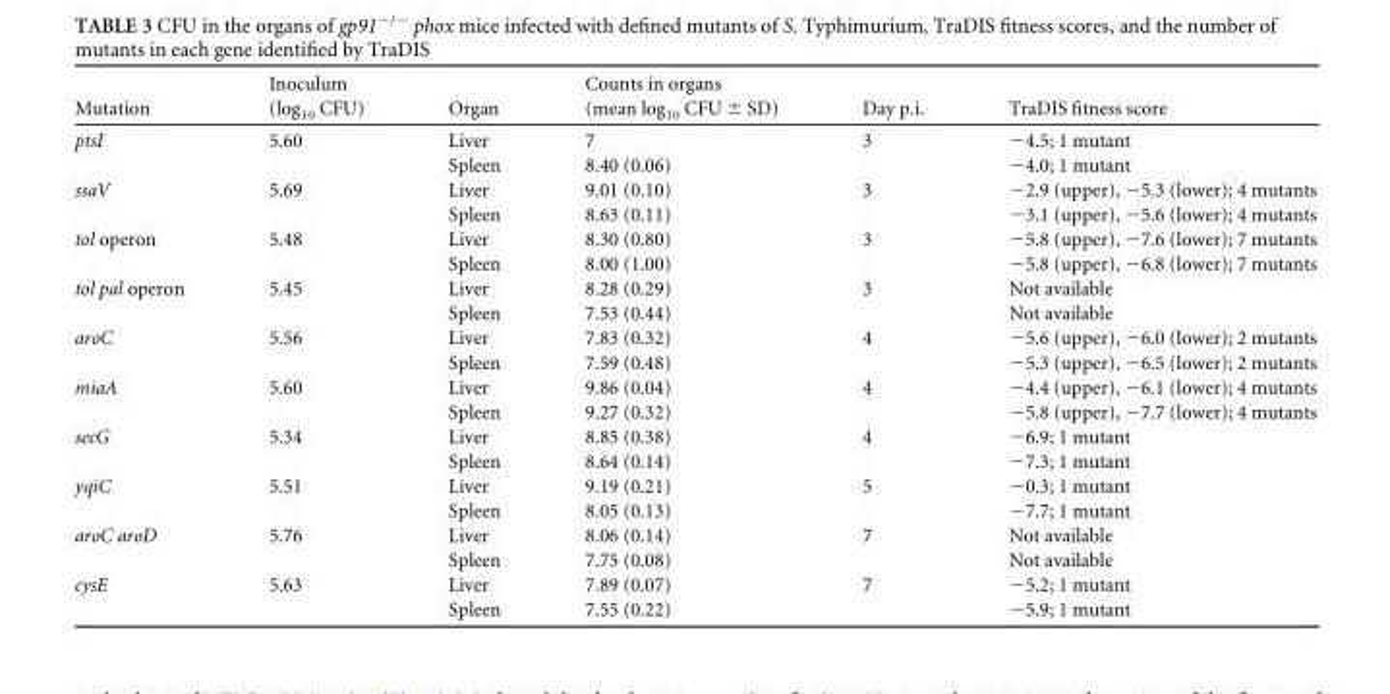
<table><thead><tr><td>Mutation</td><td>Inoculum (log<sub>10</sub> CFU)</td><td>Organ</td><td>Counts in organs (mean log<sub>10</sub> CFU ± SD)</td><td>Day p.i.</td><td>TraDIS fitness score</td></tr></thead><tbody><tr><td rowspan="2">ptsI</td><td>5.60</td><td>Liver</td><td>7</td><td>3</td><td>−4.5; 1 mutant</td></tr><tr><td></td><td>Spleen</td><td>8.40 (0.06)</td><td></td><td>−4.0; 1 mutant</td></tr><tr><td rowspan="2">ssaV</td><td>5.69</td><td>Liver</td><td>9.01 (0.10)</td><td>3</td><td>−2.9 (upper), −5.3 (lower); 4 mutants</td></tr><tr><td></td><td>Spleen</td><td>8.63 (0.11)</td><td></td><td>−3.1 (upper), −5.6 (lower); 4 mutants</td></tr><tr><td rowspan="2">tol operon</td><td>5.48</td><td>Liver</td><td>8.30 (0.80)</td><td>3</td><td>−5.8 (upper), −7.6 (lower); 7 mutants</td></tr><tr><td></td><td>Spleen</td><td>8.00 (1.00)</td><td></td><td>−5.8 (upper), −6.8 (lower); 7 mutants</td></tr><tr><td rowspan="2">tol pal operon</td><td>5.45</td><td>Liver</td><td>8.28 (0.29)</td><td>3</td><td>Not available</td></tr><tr><td></td><td>Spleen</td><td>7.53 (0.44)</td><td></td><td>Not available</td></tr><tr><td rowspan="2">aroC</td><td>5.56</td><td>Liver</td><td>7.83 (0.32)</td><td>4</td><td>−5.6 (upper), −6.0 (lower); 2 mutants</td></tr><tr><td></td><td>Spleen</td><td>7.59 (0.48)</td><td></td><td>−5.3 (upper), −6.5 (lower); 2 mutants</td></tr><tr><td rowspan="2">miaA</td><td>5.60</td><td>Liver</td><td>9.86 (0.04)</td><td>4</td><td>−4.4 (upper), −6.1 (lower); 4 mutants</td></tr><tr><td></td><td>Spleen</td><td>9.27 (0.32)</td><td></td><td>−5.8 (upper), −7.7 (lower); 4 mutants</td></tr><tr><td rowspan="2">secG</td><td>5.34</td><td>Liver</td><td>8.85 (0.38)</td><td>4</td><td>−6.9; 1 mutant</td></tr><tr><td></td><td>Spleen</td><td>8.64 (0.14)</td><td></td><td>−7.3; 1 mutant</td></tr><tr><td rowspan="2">yqiC</td><td>5.51</td><td>Liver</td><td>9.19 (0.21)</td><td>5</td><td>−0.3; 1 mutant</td></tr><tr><td></td><td>Spleen</td><td>8.05 (0.13)</td><td></td><td>−7.7; 1 mutant</td></tr><tr><td rowspan="2">aroC aroD</td><td>5.76</td><td>Liver</td><td>8.06 (0.14)</td><td>7</td><td>Not available</td></tr><tr><td></td><td>Spleen</td><td>7.75 (0.08)</td><td></td><td>Not available</td></tr><tr><td rowspan="2">cysE</td><td>5.63</td><td>Liver</td><td>7.89 (0.07)</td><td>7</td><td>−5.2; 1 mutant</td></tr><tr><td></td><td>Spleen</td><td>7.55 (0.22)</td><td></td><td>−5.9; 1 mutant</td></tr></tbody></table>